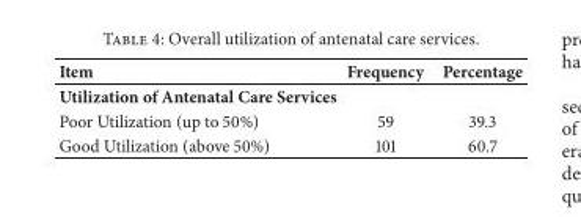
<table><thead><tr><td>Item</td><td>Frequency</td><td>Percentage</td></tr></thead><tbody><tr><td colspan="3">Utilization of Antenatal Care Services</td></tr><tr><td>Poor Utilization (up to 50%)</td><td>59</td><td>39.3</td></tr><tr><td>Good Utilization (above 50%)</td><td>101</td><td>60.7</td></tr></tbody></table>